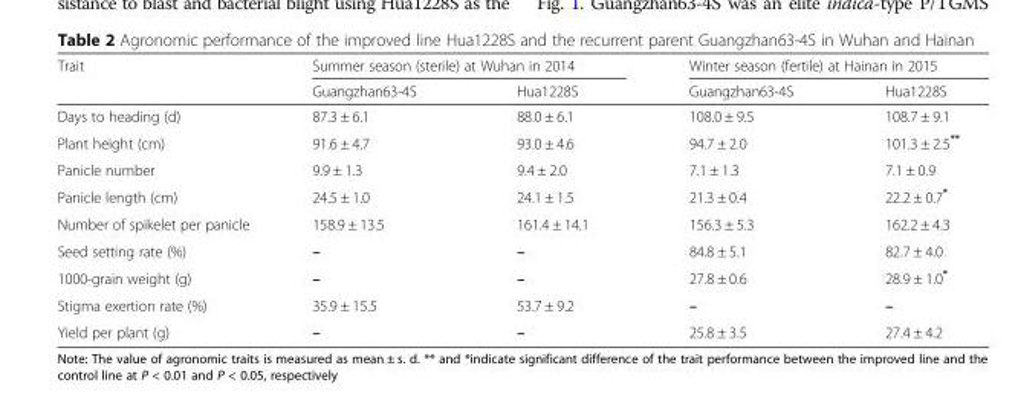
<table><thead><tr><td rowspan="2">Trait</td><td colspan="2">Summer season (sterile) at Wuhan in 2014</td><td colspan="2">Winter season (fertile) at Hainan in 2015</td></tr><tr><td>Guangzhan63-4S</td><td>Hua1228S</td><td>Guangzhan63-4S</td><td>Hua1228S</td></tr></thead><tbody><tr><td>Days to heading (d)</td><td>87.3 ± 6.1</td><td>88.0 ± 6.1</td><td>108.0 ± 9.5</td><td>108.7 ± 9.1</td></tr><tr><td>Plant height (cm)</td><td>91.6 ± 4.7</td><td>93.0 ± 4.6</td><td>94.7 ± 2.0</td><td>101.3 ± 2.5**</td></tr><tr><td>Panicle number</td><td>9.9 ± 1.3</td><td>9.4 ± 2.0</td><td>7.1 ± 1.3</td><td>7.1 ± 0.9</td></tr><tr><td>Panicle length (cm)</td><td>24.5 ± 1.0</td><td>24.1 ± 1.5</td><td>21.3 ± 0.4</td><td>22.2 ± 0.7*</td></tr><tr><td>Number of spikelet per panicle</td><td>158.9 ± 13.5</td><td>161.4 ± 14.1</td><td>156.3 ± 5.3</td><td>162.2 ± 4.3</td></tr><tr><td>Seed setting rate (%)</td><td>–</td><td>–</td><td>84.8 ± 5.1</td><td>82.7 ± 4.0</td></tr><tr><td>1000-grain weight (g)</td><td>–</td><td>–</td><td>27.8 ± 0.6</td><td>28.9 ± 1.0*</td></tr><tr><td>Stigma exertion rate (%)</td><td>35.9 ± 15.5</td><td>53.7 ± 9.2</td><td>–</td><td>–</td></tr><tr><td>Yield per plant (g)</td><td>–</td><td>–</td><td>25.8 ± 3.5</td><td>27.4 ± 4.2</td></tr></tbody></table>